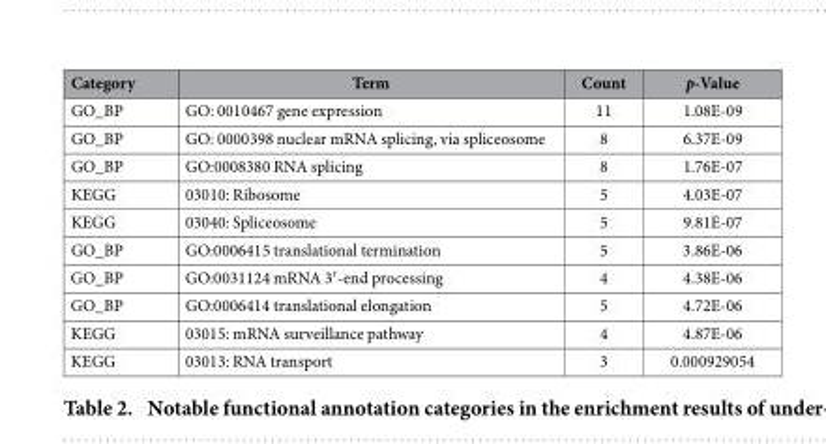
<table><thead><tr><td>Category</td><td>Term</td><td>Count</td><td>p-Value</td></tr></thead><tbody><tr><td>GO_BP</td><td>GO: 0010467 gene expression</td><td>11</td><td>1.08E-09</td></tr><tr><td>GO_BP</td><td>GO: 0000398 nuclear mRNA splicing, via spliceosome</td><td>8</td><td>6.37E-09</td></tr><tr><td>GO_BP</td><td>GO:0008380 RNA splicing</td><td>8</td><td>1.76E-07</td></tr><tr><td>KEGG</td><td>03010: Ribosome</td><td>5</td><td>4.03E-07</td></tr><tr><td>KEGG</td><td>03040: Spliceosome</td><td>5</td><td>9.81E-07</td></tr><tr><td>GO_BP</td><td>GO:0006415 translational termination</td><td>5</td><td>3.86E-06</td></tr><tr><td>GO_BP</td><td>GO:0031124 mRNA 3′ -end processing</td><td>4</td><td>4.38E-06</td></tr><tr><td>GO_BP</td><td>GO:0006414 translational elongation</td><td>5</td><td>4.72E-06</td></tr><tr><td>KEGG</td><td>03015: mRNA surveillance pathway</td><td>4</td><td>4.87E-06</td></tr><tr><td>KEGG</td><td>03013: RNA transport</td><td>3</td><td>0.000929054</td></tr></tbody></table>